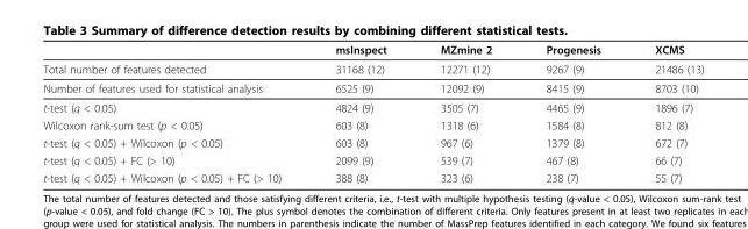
<table><thead><tr><td></td><td>msInspect</td><td>MZmine 2</td><td>Progenesis</td><td>XCMS</td></tr></thead><tbody><tr><td>Total number of features detected</td><td>31168 (12)</td><td>12271 (12)</td><td>9267 (9)</td><td>21486 (13)</td></tr><tr><td>Number of features used for statistical analysis</td><td>6525 (9)</td><td>12092 (9)</td><td>8415 (9)</td><td>8703 (10)</td></tr><tr><td>t-test (q &lt; 0.05)</td><td>4824 (9)</td><td>3505 (7)</td><td>4465 (9)</td><td>1896 (7)</td></tr><tr><td>Wilcoxon rank-sum test (p &lt; 0.05)</td><td>603 (8)</td><td>1318 (6)</td><td>1584 (8)</td><td>812 (8)</td></tr><tr><td>t-test (q &lt; 0.05) + Wilcoxon (p &lt; 0.05)</td><td>603 (8)</td><td>967 (6)</td><td>1379 (8)</td><td>672 (7)</td></tr><tr><td>t-test (q &lt; 0.05) + FC (&gt; 10)</td><td>2099 (9)</td><td>539 (7)</td><td>467 (8)</td><td>66 (7)</td></tr><tr><td>t-test (q &lt; 0.05) + Wilcoxon (p &lt; 0.05) + FC (&gt; 10)</td><td>388 (8)</td><td>323 (6)</td><td>238 (7)</td><td>55 (7)</td></tr></tbody></table>